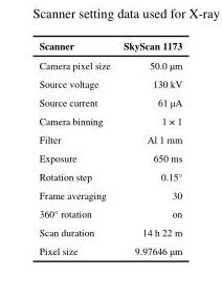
<table><thead><tr><td>Scanner</td><td>SkyScan 1173</td></tr></thead><tbody><tr><td>Camera pixel size</td><td>50.0 μm</td></tr><tr><td>Source voltage</td><td>130 kV</td></tr><tr><td>Source current</td><td>61 μA</td></tr><tr><td>Camera binning</td><td>1 × 1</td></tr><tr><td>Filter</td><td>Al 1 mm</td></tr><tr><td>Exposure</td><td>650 ms</td></tr><tr><td>Rotation step</td><td>0.15°</td></tr><tr><td>Frame averaging</td><td>30</td></tr><tr><td>360° rotation</td><td>on</td></tr><tr><td>Scan duration</td><td>14 h 22 m</td></tr><tr><td>Pixel size</td><td>9.97646 μm</td></tr></tbody></table>